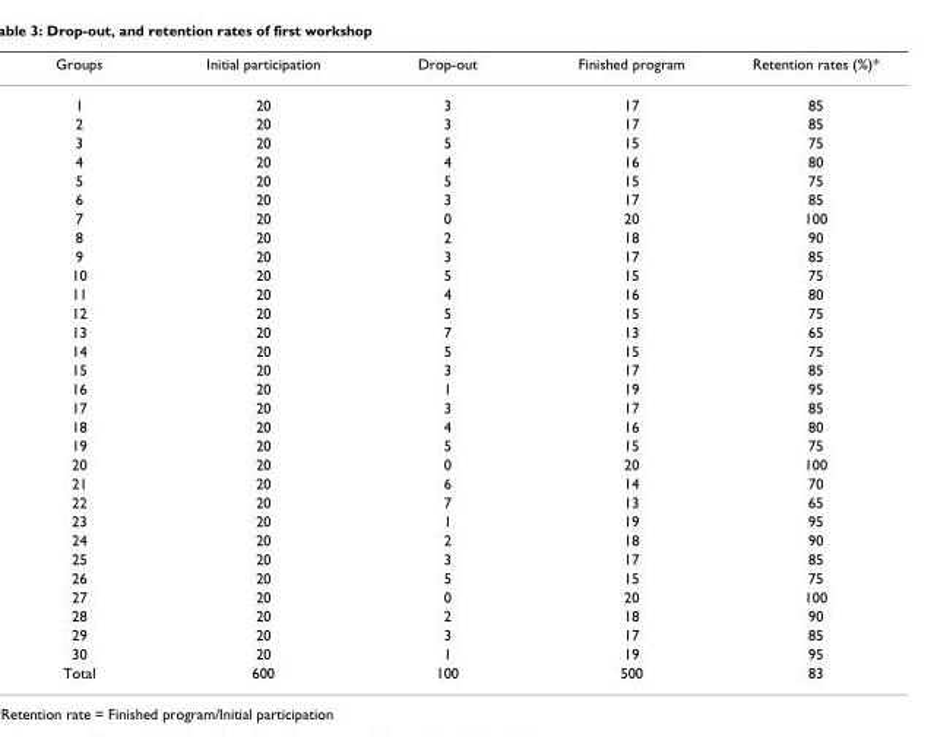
<table><thead><tr><td>Groups</td><td>Initial participation</td><td>Drop-out</td><td>Finished program</td><td>Retention rates (%)*</td></tr></thead><tbody><tr><td>1</td><td>20</td><td>3</td><td>17</td><td>85</td></tr><tr><td>2</td><td>20</td><td>3</td><td>17</td><td>85</td></tr><tr><td>3</td><td>20</td><td>5</td><td>15</td><td>75</td></tr><tr><td>4</td><td>20</td><td>4</td><td>16</td><td>80</td></tr><tr><td>5</td><td>20</td><td>5</td><td>15</td><td>75</td></tr><tr><td>6</td><td>20</td><td>3</td><td>17</td><td>85</td></tr><tr><td>7</td><td>20</td><td>0</td><td>20</td><td>100</td></tr><tr><td>8</td><td>20</td><td>2</td><td>18</td><td>90</td></tr><tr><td>9</td><td>20</td><td>3</td><td>17</td><td>85</td></tr><tr><td>10</td><td>20</td><td>5</td><td>15</td><td>75</td></tr><tr><td>11</td><td>20</td><td>4</td><td>16</td><td>80</td></tr><tr><td>12</td><td>20</td><td>5</td><td>15</td><td>75</td></tr><tr><td>13</td><td>20</td><td>7</td><td>13</td><td>65</td></tr><tr><td>14</td><td>20</td><td>5</td><td>15</td><td>75</td></tr><tr><td>15</td><td>20</td><td>3</td><td>17</td><td>85</td></tr><tr><td>16</td><td>20</td><td>1</td><td>19</td><td>95</td></tr><tr><td>17</td><td>20</td><td>3</td><td>17</td><td>85</td></tr><tr><td>18</td><td>20</td><td>4</td><td>16</td><td>80</td></tr><tr><td>19</td><td>20</td><td>5</td><td>15</td><td>75</td></tr><tr><td>20</td><td>20</td><td>0</td><td>20</td><td>100</td></tr><tr><td>21</td><td>20</td><td>6</td><td>14</td><td>70</td></tr><tr><td>22</td><td>20</td><td>7</td><td>13</td><td>65</td></tr><tr><td>23</td><td>20</td><td>1</td><td>19</td><td>95</td></tr><tr><td>24</td><td>20</td><td>2</td><td>18</td><td>90</td></tr><tr><td>25</td><td>20</td><td>3</td><td>17</td><td>85</td></tr><tr><td>26</td><td>20</td><td>5</td><td>15</td><td>75</td></tr><tr><td>27</td><td>20</td><td>0</td><td>20</td><td>100</td></tr><tr><td>28</td><td>20</td><td>2</td><td>18</td><td>90</td></tr><tr><td>29</td><td>20</td><td>3</td><td>17</td><td>85</td></tr><tr><td>30</td><td>20</td><td>1</td><td>19</td><td>95</td></tr><tr><td>Total</td><td>600</td><td>100</td><td>500</td><td>83</td></tr></tbody></table>